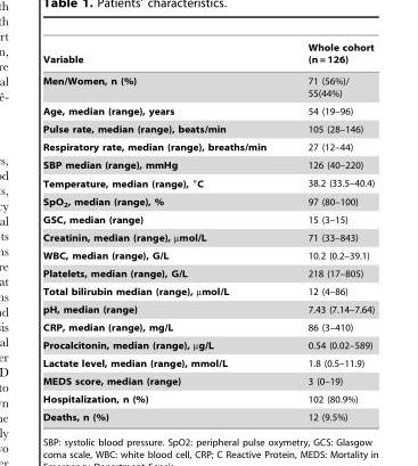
<table><thead><tr><td>Variable</td><td>Whole cohort (n = 126)</td></tr></thead><tbody><tr><td>Men/Women, n (%)</td><td>71 (56%)/ 55(44%)</td></tr><tr><td>Age, median (range), years</td><td>54 (19–96)</td></tr><tr><td>Pulse rate, median (range), beats/min</td><td>105 (28–146)</td></tr><tr><td>Respiratory rate, median (range), breaths/min</td><td>27 (12–44)</td></tr><tr><td>SBP median (range), mmHg</td><td>126 (40–220)</td></tr><tr><td>Temperature, median (range), °C</td><td>38.2 (33.5–40.4)</td></tr><tr><td>SpO<sub>2</sub>, median (range), %</td><td>97 (80–100)</td></tr><tr><td>GSC, median (range)</td><td>15 (3–15)</td></tr><tr><td>Creatinin, median (range), µmol/L</td><td>71 (33–843)</td></tr><tr><td>WBC, median (range), G/L</td><td>10.2 (0.2–39.1)</td></tr><tr><td>Platelets, median (range), G/L</td><td>218 (17–805)</td></tr><tr><td>Total bilirubin median (range), µmol/L</td><td>12 (4–86)</td></tr><tr><td>pH, median (range)</td><td>7.43 (7.14–7.64)</td></tr><tr><td>CRP, median (range), mg/L</td><td>86 (3–410)</td></tr><tr><td>Procalcitonin, median (range), µg/L</td><td>0.54 (0.02–589)</td></tr><tr><td>Lactate level, median (range), mmol/L</td><td>1.8 (0.5–11.9)</td></tr><tr><td>MEDS score, median (range)</td><td>3 (0–19)</td></tr><tr><td>Hospitalization, n (%)</td><td>102 (80.9%)</td></tr><tr><td>Deaths, n (%)</td><td>12 (9.5%)</td></tr></tbody></table>